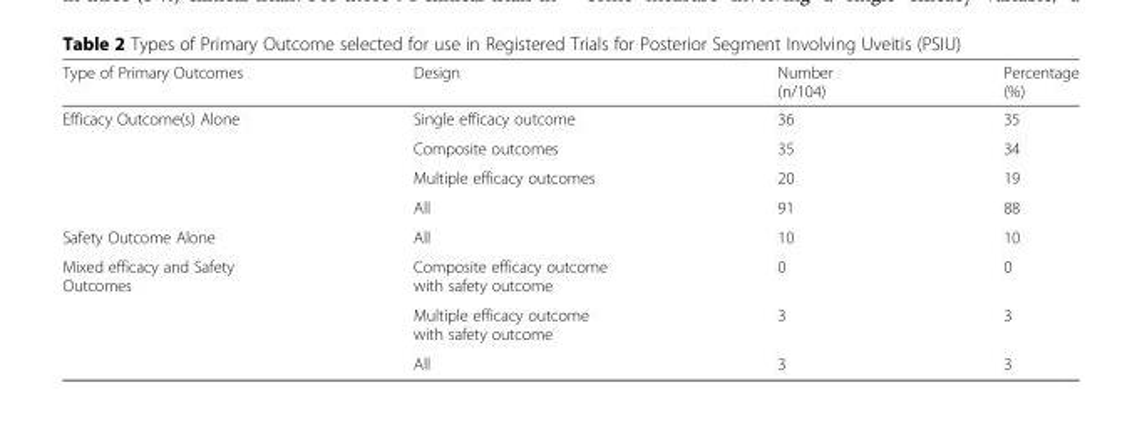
<table><thead><tr><td>Type of Primary Outcomes</td><td>Design</td><td>Number (n/104)</td><td>Percentage (%)</td></tr></thead><tbody><tr><td rowspan="4">Efficacy Outcome(s) Alone</td><td>Single efficacy outcome</td><td>36</td><td>35</td></tr><tr><td>Composite outcomes</td><td>35</td><td>34</td></tr><tr><td>Multiple efficacy outcomes</td><td>20</td><td>19</td></tr><tr><td>All</td><td>91</td><td>88</td></tr><tr><td>Safety Outcome Alone</td><td>All</td><td>10</td><td>10</td></tr><tr><td rowspan="3">Mixed efficacy and Safety Outcomes</td><td>Composite efficacy outcome with safety outcome</td><td>0</td><td>0</td></tr><tr><td>Multiple efficacy outcome with safety outcome</td><td>3</td><td>3</td></tr><tr><td>All</td><td>3</td><td>3</td></tr></tbody></table>